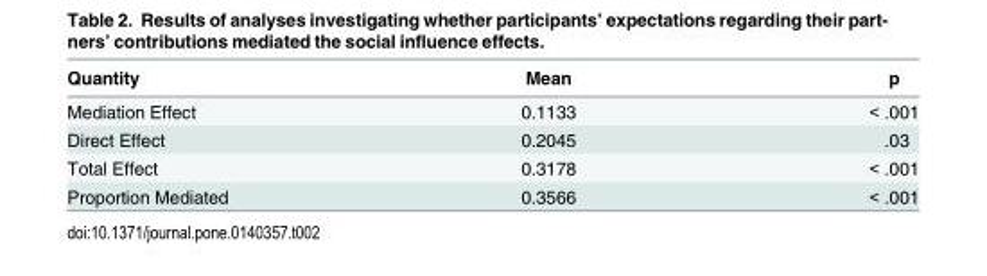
<table><thead><tr><td>Quantity</td><td>Mean</td><td>p</td></tr></thead><tbody><tr><td>Mediation Effect</td><td>0.1133</td><td>&lt; .001</td></tr><tr><td>Direct Effect</td><td>0.2045</td><td>.03</td></tr><tr><td>Total Effect</td><td>0.3178</td><td>&lt; .001</td></tr><tr><td>Proportion Mediated</td><td>0.3566</td><td>&lt; .001</td></tr></tbody></table>